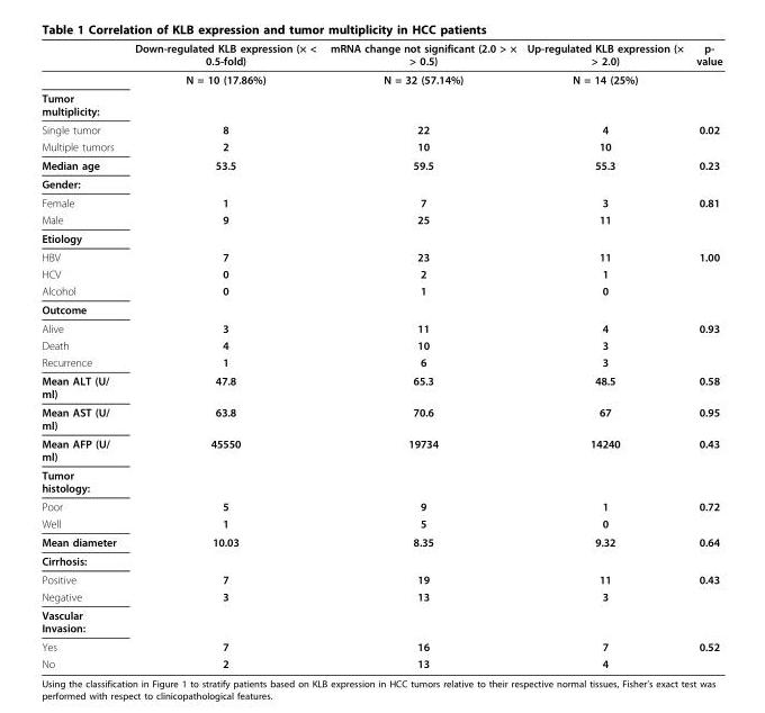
<table><thead><tr><td></td><td>Down-regulated KLB expression (× &lt; 0.5-fold)</td><td>mRNA change not significant (2.0 &gt; × &gt; 0.5)</td><td>Up-regulated KLB expression (× &gt; 2.0)</td><td>p- value</td></tr></thead><tbody><tr><td></td><td>N = 10 (17.86%)</td><td>N = 32 (57.14%)</td><td>N = 14 (25%)</td><td></td></tr><tr><td colspan="5">Tumor multiplicity:</td></tr><tr><td>Single tumor</td><td>8</td><td>22</td><td>4</td><td>0.02</td></tr><tr><td>Multiple tumors</td><td>2</td><td>10</td><td>10</td><td></td></tr><tr><td>Median age</td><td>53.5</td><td>59.5</td><td>55.3</td><td>0.23</td></tr><tr><td colspan="5">Gender:</td></tr><tr><td>Female</td><td>1</td><td>7</td><td>3</td><td>0.81</td></tr><tr><td>Male</td><td>9</td><td>25</td><td>11</td><td></td></tr><tr><td colspan="5">Etiology</td></tr><tr><td>HBV</td><td>7</td><td>23</td><td>11</td><td>1.00</td></tr><tr><td>HCV</td><td>0</td><td>2</td><td>1</td><td></td></tr><tr><td>Alcohol</td><td>0</td><td>1</td><td>0</td><td></td></tr><tr><td colspan="5">Outcome</td></tr><tr><td>Alive</td><td>3</td><td>11</td><td>4</td><td>0.93</td></tr><tr><td>Death</td><td>4</td><td>10</td><td>3</td><td></td></tr><tr><td>Recurrence</td><td>1</td><td>6</td><td>3</td><td></td></tr><tr><td>Mean ALT (U/ ml)</td><td>47.8</td><td>65.3</td><td>48.5</td><td>0.58</td></tr><tr><td>Mean AST (U/ ml)</td><td>63.8</td><td>70.6</td><td>67</td><td>0.95</td></tr><tr><td>Mean AFP (U/ ml)</td><td>45550</td><td>19734</td><td>14240</td><td>0.43</td></tr><tr><td colspan="5">Tumor histology:</td></tr><tr><td>Poor</td><td>5</td><td>9</td><td>1</td><td>0.72</td></tr><tr><td>Well</td><td>1</td><td>5</td><td>0</td><td></td></tr><tr><td>Mean diameter</td><td>10.03</td><td>8.35</td><td>9.32</td><td>0.64</td></tr><tr><td colspan="5">Cirrhosis:</td></tr><tr><td>Positive</td><td>7</td><td>19</td><td>11</td><td>0.43</td></tr><tr><td>Negative</td><td>3</td><td>13</td><td>3</td><td></td></tr><tr><td colspan="5">Vascular Invasion:</td></tr><tr><td>Yes</td><td>7</td><td>16</td><td>7</td><td>0.52</td></tr><tr><td>No</td><td>2</td><td>13</td><td>4</td><td></td></tr></tbody></table>